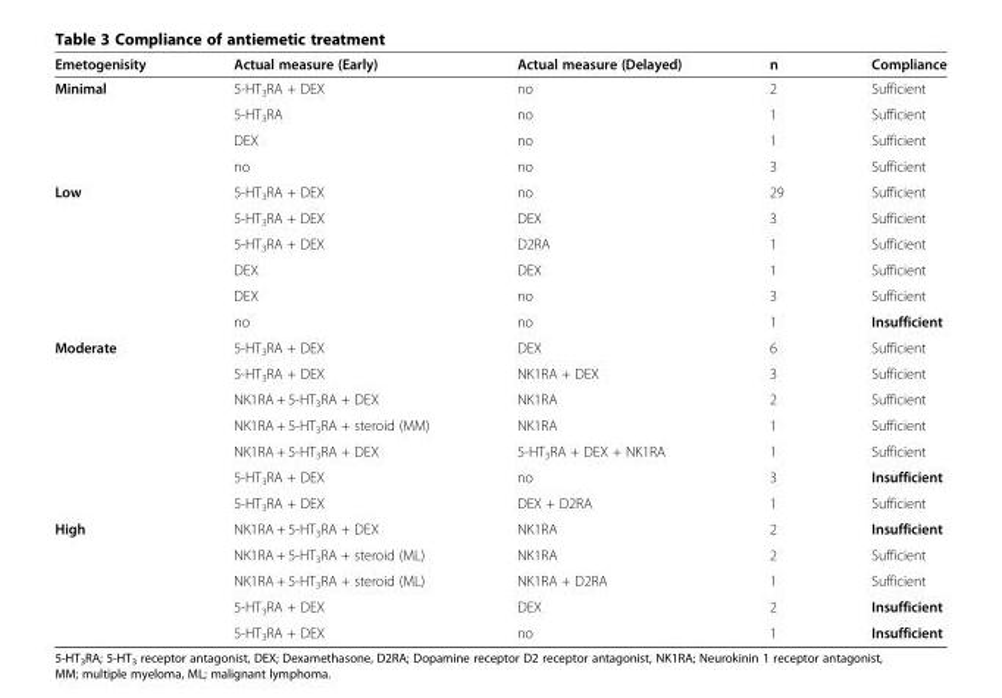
<table><thead><tr><td>Emetogenisity</td><td>Actual measure (Early)</td><td>Actual measure (Delayed)</td><td>n</td><td>Compliance</td></tr></thead><tbody><tr><td rowspan="4">Minimal</td><td>5-HT<sub>3</sub>RA + DEX</td><td>no</td><td>2</td><td>Sufficient</td></tr><tr><td>5-HT<sub>3</sub>RA</td><td>no</td><td>1</td><td>Sufficient</td></tr><tr><td>DEX</td><td>no</td><td>1</td><td>Sufficient</td></tr><tr><td>no</td><td>no</td><td>3</td><td>Sufficient</td></tr><tr><td rowspan="6">Low</td><td>5-HT<sub>3</sub>RA + DEX</td><td>no</td><td>29</td><td>Sufficient</td></tr><tr><td>5-HT<sub>3</sub>RA + DEX</td><td>DEX</td><td>3</td><td>Sufficient</td></tr><tr><td>5-HT<sub>3</sub>RA + DEX</td><td>D2RA</td><td>1</td><td>Sufficient</td></tr><tr><td>DEX</td><td>DEX</td><td>1</td><td>Sufficient</td></tr><tr><td>DEX</td><td>no</td><td>3</td><td>Sufficient</td></tr><tr><td>no</td><td>no</td><td>1</td><td>Insufficient</td></tr><tr><td rowspan="7">Moderate</td><td>5-HT<sub>3</sub>RA + DEX</td><td>DEX</td><td>6</td><td>Sufficient</td></tr><tr><td>5-HT<sub>3</sub>RA + DEX</td><td>NK1RA + DEX</td><td>3</td><td>Sufficient</td></tr><tr><td>NK1RA + 5-HT<sub>3</sub>RA + DEX</td><td>NK1RA</td><td>2</td><td>Sufficient</td></tr><tr><td>NK1RA + 5-HT<sub>3</sub>RA + steroid (MM)</td><td>NK1RA</td><td>1</td><td>Sufficient</td></tr><tr><td>NK1RA + 5-HT<sub>3</sub>RA + DEX</td><td>5-HT<sub>3</sub>RA + DEX + NK1RA</td><td>1</td><td>Sufficient</td></tr><tr><td>5-HT<sub>3</sub>RA + DEX</td><td>no</td><td>3</td><td>Insufficient</td></tr><tr><td>5-HT<sub>3</sub>RA + DEX</td><td>DEX + D2RA</td><td>1</td><td>Sufficient</td></tr><tr><td rowspan="5">High</td><td>NK1RA + 5-HT<sub>3</sub>RA + DEX</td><td>NK1RA</td><td>2</td><td>Insufficient</td></tr><tr><td>NK1RA + 5-HT<sub>3</sub>RA + steroid (ML)</td><td>NK1RA</td><td>2</td><td>Sufficient</td></tr><tr><td>NK1RA + 5-HT<sub>3</sub>RA + steroid (ML)</td><td>NK1RA + D2RA</td><td>1</td><td>Sufficient</td></tr><tr><td>5-HT<sub>3</sub>RA + DEX</td><td>DEX</td><td>2</td><td>Insufficient</td></tr><tr><td>5-HT<sub>3</sub>RA + DEX</td><td>no</td><td>1</td><td>Insufficient</td></tr></tbody></table>